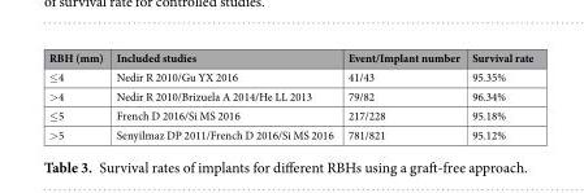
<table><thead><tr><td>RBH (mm)</td><td>Included studies</td><td>Event/Implant number</td><td>Survival rate</td></tr></thead><tbody><tr><td>≤4</td><td>Nedir R 2010/Gu YX 2016</td><td>41/43</td><td>95.35%</td></tr><tr><td>&gt;4</td><td>Nedir R 2010/Brizuela A 2014/He LL 2013</td><td>79/82</td><td>96.34%</td></tr><tr><td>≤5</td><td>French D 2016/Si MS 2016</td><td>217/228</td><td>95.18%</td></tr><tr><td>&gt;5</td><td>Senyilmaz DP 2011/French D 2016/Si MS 2016</td><td>781/821</td><td>95.12%</td></tr></tbody></table>